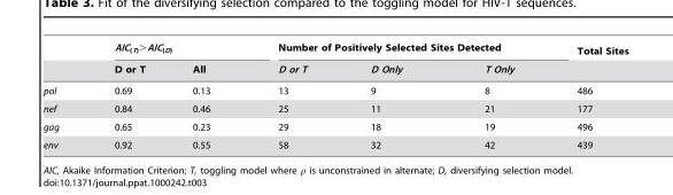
<table><thead><tr><td rowspan="2"></td><td colspan="2">AIC<sub>(T)</sub>&gt;AIC<sub>(D)</sub></td><td colspan="3">Number of Positively Selected Sites Detected</td><td rowspan="2">Total Sites</td></tr><tr><td>D or T</td><td>All</td><td>D or T</td><td>D Only</td><td>T Only</td></tr></thead><tbody><tr><td>pol</td><td>0.69</td><td>0.13</td><td>13</td><td>9</td><td>8</td><td>486</td></tr><tr><td>nef</td><td>0.84</td><td>0.46</td><td>25</td><td>11</td><td>21</td><td>177</td></tr><tr><td>gag</td><td>0.65</td><td>0.23</td><td>29</td><td>18</td><td>19</td><td>496</td></tr><tr><td>env</td><td>0.92</td><td>0.55</td><td>58</td><td>32</td><td>42</td><td>439</td></tr></tbody></table>